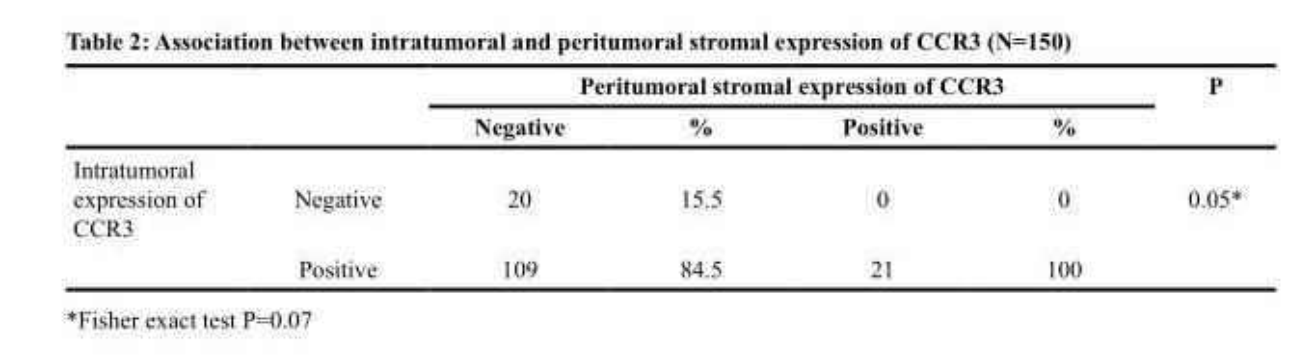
<table><thead><tr><td rowspan="2"></td><td rowspan="2"></td><td colspan="4">Peritumoral stromal expression of CCR3</td><td rowspan="2">P</td></tr><tr><td>Negative</td><td>%</td><td>Positive</td><td>%</td></tr></thead><tbody><tr><td rowspan="2">Intratumoral expression of CCR3</td><td>Negative</td><td>20</td><td>15.5</td><td>0</td><td>0</td><td>0.05*</td></tr><tr><td>Positive</td><td>109</td><td>84.5</td><td>21</td><td>100</td><td></td></tr></tbody></table>